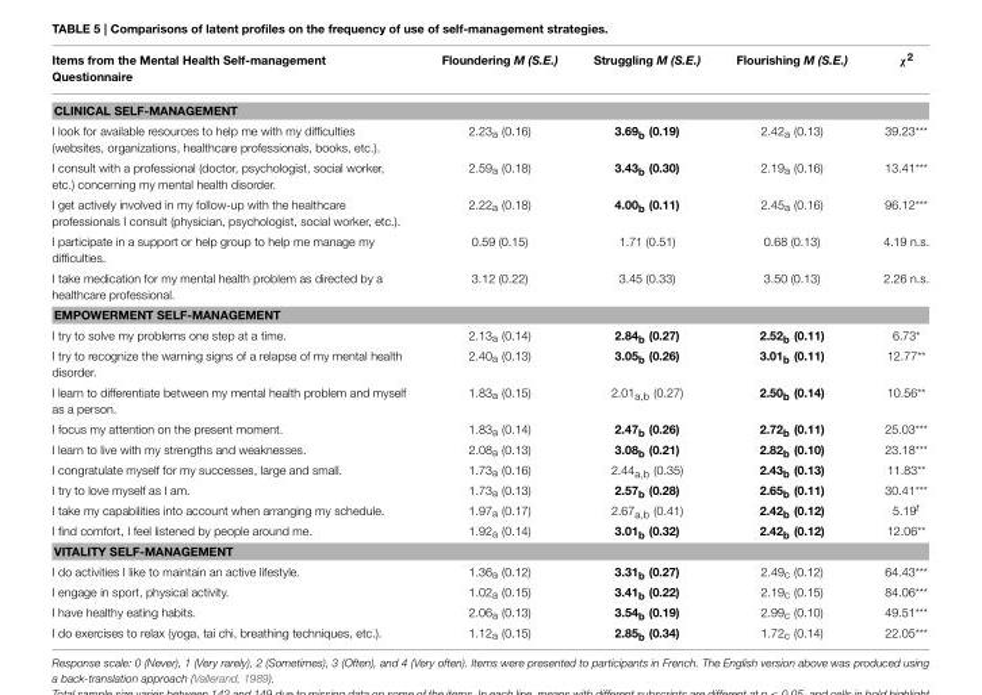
<table><thead><tr><td>Items from the Mental Health Self-management Questionnaire</td><td>Floundering M (S.E.)</td><td>Struggling M (S.E.)</td><td>Flourishing M (S.E.)</td><td>χ<sup>2</sup></td></tr></thead><tbody><tr><td colspan="5">CLINICAL SELF-MANAGEMENT</td></tr><tr><td>I look for available resources to help me with my difficulties (websites, organizations, healthcare professionals, books, etc.).</td><td>2.23<sub>a</sub> (0.16)</td><td>3.69<sub>b</sub> (0.19)</td><td>2.42<sub>a</sub> (0.13)</td><td>39.23***</td></tr><tr><td>I consult with a professional (doctor, psychologist, social worker, etc.) concerning my mental health disorder.</td><td>2.59<sub>a</sub> (0.18)</td><td>3.43<sub>b</sub> (0.30)</td><td>2.19<sub>a</sub> (0.16)</td><td>13.41***</td></tr><tr><td>I get actively involved in my follow-up with the healthcare professionals I consult (physician, psychologist, social worker, etc.).</td><td>2.22<sub>a</sub> (0.18)</td><td>4.00<sub>b</sub> (0.11)</td><td>2.45<sub>a</sub> (0.16)</td><td>96.12***</td></tr><tr><td>I participate in a support or help group to help me manage my difficulties.</td><td>0.59 (0.15)</td><td>1.71 (0.51)</td><td>0.68 (0.13)</td><td>4.19 n.s.</td></tr><tr><td>I take medication for my mental health problem as directed by a healthcare professional.</td><td>3.12 (0.22)</td><td>3.45 (0.33)</td><td>3.50 (0.13)</td><td>2.26 n.s.</td></tr><tr><td colspan="5">EMPOWERMENT SELF-MANAGEMENT</td></tr><tr><td>I try to solve my problems one step at a time.</td><td>2.13<sub>a</sub> (0.14)</td><td>2.84<sub>b</sub> (0.27)</td><td>2.52<sub>b</sub> (0.11)</td><td>6.73*</td></tr><tr><td>I try to recognize the warning signs of a relapse of my mental health disorder.</td><td>2.40<sub>a</sub> (0.13)</td><td>3.05<sub>b</sub> (0.26)</td><td>3.01<sub>b</sub> (0.11)</td><td>12.77**</td></tr><tr><td>I learn to differentiate between my mental health problem and myself as a person.</td><td>1.83<sub>a</sub> (0.15)</td><td>2.01<sub>a,b</sub> (0.27)</td><td>2.50<sub>b</sub> (0.14)</td><td>10.56**</td></tr><tr><td>I focus my attention on the present moment.</td><td>1.83<sub>a</sub> (0.14)</td><td>2.47<sub>b</sub> (0.26)</td><td>2.72<sub>b</sub> (0.11)</td><td>25.03***</td></tr><tr><td>I learn to live with my strengths and weaknesses.</td><td>2.08<sub>a</sub> (0.13)</td><td>3.08<sub>b</sub> (0.21)</td><td>2.82<sub>b</sub> (0.10)</td><td>23.18***</td></tr><tr><td>I congratulate myself for my successes, large and small.</td><td>1.73<sub>a</sub> (0.16)</td><td>2.44<sub>a,b</sub> (0.35)</td><td>2.43<sub>b</sub> (0.13)</td><td>11.83**</td></tr><tr><td>I try to love myself as I am.</td><td>1.73<sub>a</sub> (0.13)</td><td>2.57<sub>b</sub> (0.28)</td><td>2.65<sub>b</sub> (0.11)</td><td>30.41***</td></tr><tr><td>I take my capabilities into account when arranging my schedule.</td><td>1.97<sub>a</sub> (0.17)</td><td>2.67<sub>a,b</sub> (0.41)</td><td>2.42<sub>b</sub> (0.12)</td><td>5.19<sup>t</sup></td></tr><tr><td>I find comfort, I feel listened by people around me.</td><td>1.92<sub>a</sub> (0.14)</td><td>3.01<sub>b</sub> (0.32)</td><td>2.42<sub>b</sub> (0.12)</td><td>12.06**</td></tr><tr><td colspan="5">VITALITY SELF-MANAGEMENT</td></tr><tr><td>I do activities I like to maintain an active lifestyle.</td><td>1.36<sub>a</sub> (0.12)</td><td>3.31<sub>b</sub> (0.27)</td><td>2.49<sub>c</sub> (0.12)</td><td>64.43***</td></tr><tr><td>I engage in sport, physical activity.</td><td>1.02<sub>a</sub> (0.15)</td><td>3.41<sub>b</sub> (0.22)</td><td>2.19<sub>c</sub> (0.15)</td><td>84.06***</td></tr><tr><td>I have healthy eating habits.</td><td>2.06<sub>a</sub> (0.13)</td><td>3.54<sub>b</sub> (0.19)</td><td>2.99<sub>c</sub> (0.10)</td><td>49.51***</td></tr><tr><td>I do exercises to relax (yoga, tai chi, breathing techniques, etc.).</td><td>1.12<sub>a</sub> (0.15)</td><td>2.85<sub>b</sub> (0.34)</td><td>1.72<sub>c</sub> (0.14)</td><td>22.05***</td></tr></tbody></table>